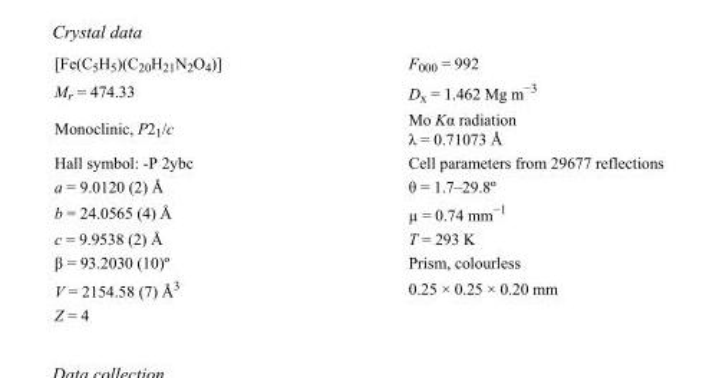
<table><tbody><tr><td>[Fe(C<sub>5</sub>H<sub>5</sub>)(C<sub>20</sub>H<sub>21</sub>N<sub>2</sub>O<sub>4</sub>)]</td><td>F000 = 992</td></tr><tr><td>M<sub>r</sub> = 474.33</td><td>D<sub>x</sub> = 1.462 Mg m<sup>−3</sup></td></tr><tr><td>Monoclinic, P2<sub>1</sub>/c</td><td>Mo Kα radiation λ = 0.71073 Å</td></tr><tr><td>Hall symbol: -P 2ybc</td><td>Cell parameters from 29677 reflections</td></tr><tr><td>a = 9.0120 (2) Å</td><td>θ = 1.7–29.8º</td></tr><tr><td>b = 24.0565 (4) Å</td><td>µ = 0.74 mm<sup>−1</sup></td></tr><tr><td>c = 9.9538 (2) Å</td><td>T = 293 K</td></tr><tr><td>β = 93.2030 (10)º</td><td>Prism, colourless</td></tr><tr><td>V = 2154.58 (7) Å<sup>3</sup></td><td>0.25 × 0.25 × 0.20 mm</td></tr><tr><td>Z = 4</td><td></td></tr></tbody></table>